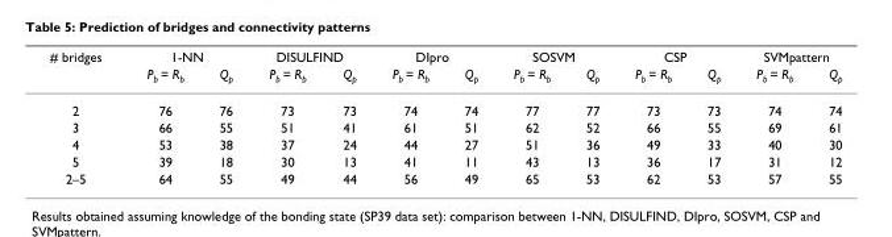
<table><thead><tr><td rowspan="2"># bridges</td><td colspan="2">1-NN</td><td colspan="2">DISULFIND</td><td colspan="2">DIpro</td><td colspan="2">SOSVM</td><td colspan="2">CSP</td><td colspan="2">SVMpattern</td></tr><tr><td>P<sub>b</sub> = R<sub>b</sub></td><td>Q<sub>p</sub></td><td>P<sub>b</sub> = R<sub>b</sub></td><td>Q<sub>p</sub></td><td>P<sub>b</sub> = R<sub>b</sub></td><td>Q<sub>p</sub></td><td>P<sub>b</sub> = R<sub>b</sub></td><td>Q<sub>p</sub></td><td>P<sub>b</sub> = R<sub>b</sub></td><td>Q<sub>p</sub></td><td>P<sub>b</sub> = R<sub>b</sub></td><td>Q<sub>p</sub></td></tr></thead><tbody><tr><td>2</td><td>76</td><td>76</td><td>73</td><td>73</td><td>74</td><td>74</td><td>77</td><td>77</td><td>73</td><td>73</td><td>74</td><td>74</td></tr><tr><td>3</td><td>66</td><td>55</td><td>51</td><td>41</td><td>61</td><td>51</td><td>62</td><td>52</td><td>66</td><td>55</td><td>69</td><td>61</td></tr><tr><td>4</td><td>53</td><td>38</td><td>37</td><td>24</td><td>44</td><td>27</td><td>51</td><td>36</td><td>49</td><td>33</td><td>40</td><td>30</td></tr><tr><td>5</td><td>39</td><td>18</td><td>30</td><td>13</td><td>41</td><td>11</td><td>43</td><td>13</td><td>36</td><td>17</td><td>31</td><td>12</td></tr><tr><td>2–5</td><td>64</td><td>55</td><td>49</td><td>44</td><td>56</td><td>49</td><td>65</td><td>53</td><td>62</td><td>53</td><td>57</td><td>55</td></tr></tbody></table>